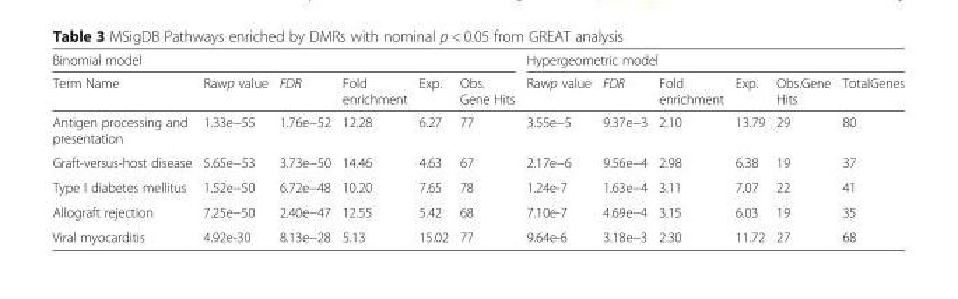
<table><thead><tr><td colspan="6">Binomial model</td><td colspan="6">Hypergeometric model</td></tr><tr><td>Term Name</td><td>Rawp value</td><td>FDR</td><td>Fold enrichment</td><td>Exp.</td><td>Obs. Gene Hits</td><td>Rawp value</td><td>FDR</td><td>Fold enrichment</td><td>Exp.</td><td>Obs.Gene Hits</td><td>TotalGenes</td></tr></thead><tbody><tr><td>Antigen processing and presentation</td><td>1.33e−55</td><td>1.76e−52</td><td>12.28</td><td>6.27</td><td>77</td><td>3.55e−5</td><td>9.37e−3</td><td>2.10</td><td>13.79</td><td>29</td><td>80</td></tr><tr><td>Graft-versus-host disease</td><td>5.65e−53</td><td>3.73e−50</td><td>14.46</td><td>4.63</td><td>67</td><td>2.17e−6</td><td>9.56e−4</td><td>2.98</td><td>6.38</td><td>19</td><td>37</td></tr><tr><td>Type I diabetes mellitus</td><td>1.52e−50</td><td>6.72e−48</td><td>10.20</td><td>7.65</td><td>78</td><td>1.24e-7</td><td>1.63e−4</td><td>3.11</td><td>7.07</td><td>22</td><td>41</td></tr><tr><td>Allograft rejection</td><td>7.25e−50</td><td>2.40e−47</td><td>12.55</td><td>5.42</td><td>68</td><td>7.10e-7</td><td>4.69e−4</td><td>3.15</td><td>6.03</td><td>19</td><td>35</td></tr><tr><td>Viral myocarditis</td><td>4.92e-30</td><td>8.13e−28</td><td>5.13</td><td>15.02</td><td>77</td><td>9.64e-6</td><td>3.18e−3</td><td>2.30</td><td>11.72</td><td>27</td><td>68</td></tr></tbody></table>